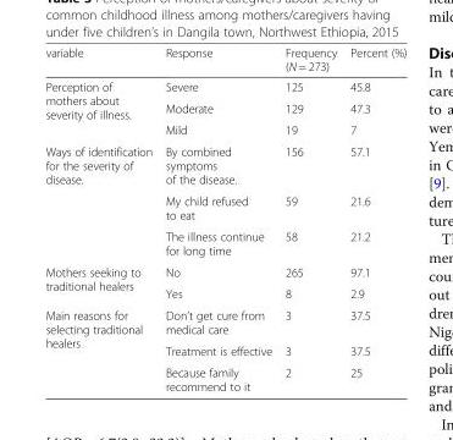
<table><thead><tr><td>variable</td><td>Response</td><td>Frequency (N = 273)</td><td>Percent (%)</td></tr></thead><tbody><tr><td rowspan="3">Perception of mothers about severity of illness.</td><td>Severe</td><td>125</td><td>45.8</td></tr><tr><td>Moderate</td><td>129</td><td>47.3</td></tr><tr><td>Mild</td><td>19</td><td>7</td></tr><tr><td rowspan="3">Ways of identification for the severity of disease.</td><td>By combined symptoms of the disease.</td><td>156</td><td>57.1</td></tr><tr><td>My child refused to eat</td><td>59</td><td>21.6</td></tr><tr><td>The illness continue for long time</td><td>58</td><td>21.2</td></tr><tr><td rowspan="2">Mothers seeking to traditional healers</td><td>No</td><td>265</td><td>97.1</td></tr><tr><td>Yes</td><td>8</td><td>2.9</td></tr><tr><td rowspan="3">Main reasons for selecting traditional healers</td><td>Don’t get cure from medical care</td><td>3</td><td>37.5</td></tr><tr><td>Treatment is effective</td><td>3</td><td>37.5</td></tr><tr><td>Because family recommend to it</td><td>2</td><td>25</td></tr></tbody></table>